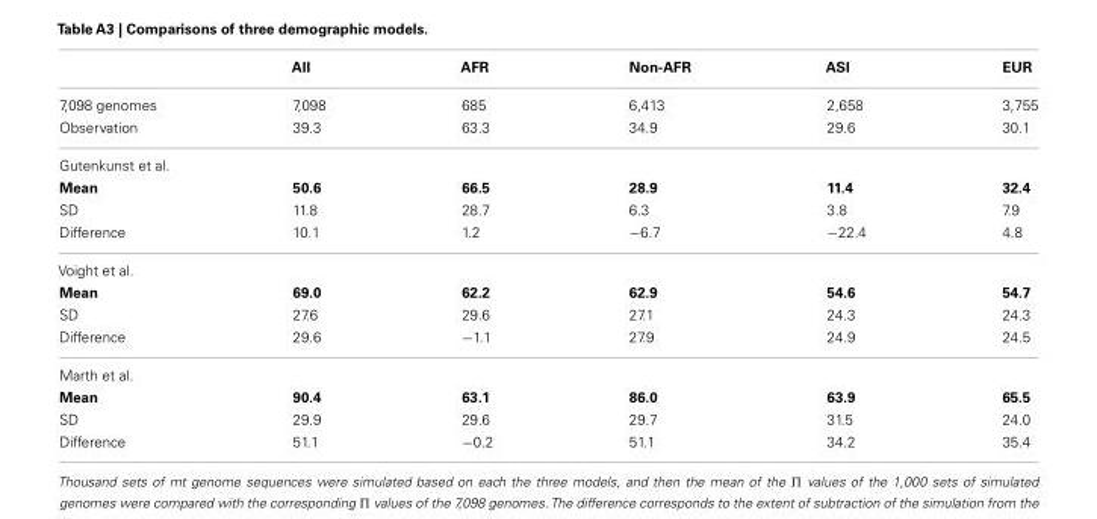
<table><thead><tr><td></td><td>All</td><td>AFR</td><td>Non-AFR</td><td>ASI</td><td>EUR</td></tr></thead><tbody><tr><td>7,098 genomes</td><td>7,098</td><td>685</td><td>6,413</td><td>2,658</td><td>3,755</td></tr><tr><td>Observation</td><td>39.3</td><td>63.3</td><td>34.9</td><td>29.6</td><td>30.1</td></tr><tr><td colspan="6">Gutenkunst et al.</td></tr><tr><td>Mean</td><td>50.6</td><td>66.5</td><td>28.9</td><td>11.4</td><td>32.4</td></tr><tr><td>SD</td><td>11.8</td><td>28.7</td><td>6.3</td><td>3.8</td><td>7.9</td></tr><tr><td>Difference</td><td>10.1</td><td>1.2</td><td>−6.7</td><td>−22.4</td><td>4.8</td></tr><tr><td colspan="6">Voight et al.</td></tr><tr><td>Mean</td><td>69.0</td><td>62.2</td><td>62.9</td><td>54.6</td><td>54.7</td></tr><tr><td>SD</td><td>27.6</td><td>29.6</td><td>27.1</td><td>24.3</td><td>24.3</td></tr><tr><td>Difference</td><td>29.6</td><td>−1.1</td><td>27.9</td><td>24.9</td><td>24.5</td></tr><tr><td colspan="6">Marth et al.</td></tr><tr><td>Mean</td><td>90.4</td><td>63.1</td><td>86.0</td><td>63.9</td><td>65.5</td></tr><tr><td>SD</td><td>29.9</td><td>29.6</td><td>29.7</td><td>31.5</td><td>24.0</td></tr><tr><td>Difference</td><td>51.1</td><td>−0.2</td><td>51.1</td><td>34.2</td><td>35.4</td></tr></tbody></table>